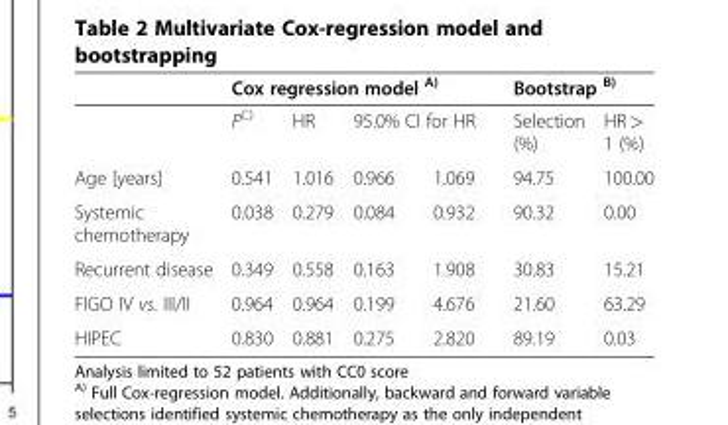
<table><thead><tr><td rowspan="3">Age [years]</td><td colspan="4">Cox regression model <sup>A)</sup></td><td colspan="2">Bootstrap <sup>B)</sup></td></tr><tr><td rowspan="2">P<sup>C)</sup> 0.541</td><td rowspan="2">HR 1.016</td><td colspan="2">95.0% CI for HR</td><td rowspan="2">Selection (%) 94.75</td><td rowspan="2">HR &gt; 1 (%) 100.00</td></tr><tr><td>0.966</td><td>1.069</td></tr></thead><tbody><tr><td>Systemic chemotherapy</td><td>0.038</td><td>0.279</td><td>0.084</td><td>0.932</td><td>90.32</td><td>0.00</td></tr><tr><td>Recurrent disease</td><td>0.349</td><td>0.558</td><td>0.163</td><td>1.908</td><td>30.83</td><td>15.21</td></tr><tr><td>FIGO IV vs. III/II</td><td>0.964</td><td>0.964</td><td>0.199</td><td>4.676</td><td>21.60</td><td>63.29</td></tr><tr><td>HIPEC</td><td>0.830</td><td>0.881</td><td>0.275</td><td>2.820</td><td>89.19</td><td>0.03</td></tr></tbody></table>